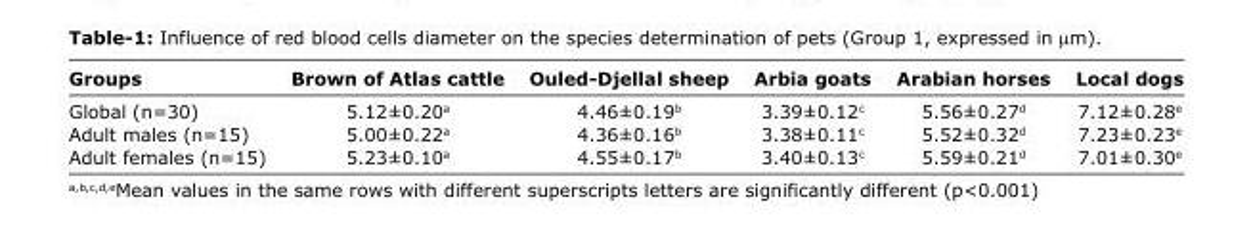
<table><thead><tr><td>Groups</td><td>Brown of Atlas cattle</td><td>Ouled-Djellal sheep</td><td>Arbia goats</td><td>Arabian horses</td><td>Local dogs</td></tr></thead><tbody><tr><td>Global (n=30)</td><td>5.12±0.20<sup>a</sup></td><td>4.46±0.19<sup>b</sup></td><td>3.39±0.12<sup>c</sup></td><td>5.56±0.27<sup>d</sup></td><td>7.12±0.28<sup>e</sup></td></tr><tr><td>Adult males (n=15)</td><td>5.00±0.22<sup>a</sup></td><td>4.36±0.16<sup>b</sup></td><td>3.38±0.11<sup>c</sup></td><td>5.52±0.32<sup>d</sup></td><td>7.23±0.23<sup>e</sup></td></tr><tr><td>Adult females (n=15)</td><td>5.23±0.10<sup>a</sup></td><td>4.55±0.17<sup>b</sup></td><td>3.40±0.13<sup>c</sup></td><td>5.59±0.21<sup>d</sup></td><td>7.01±0.30<sup>e</sup></td></tr></tbody></table>